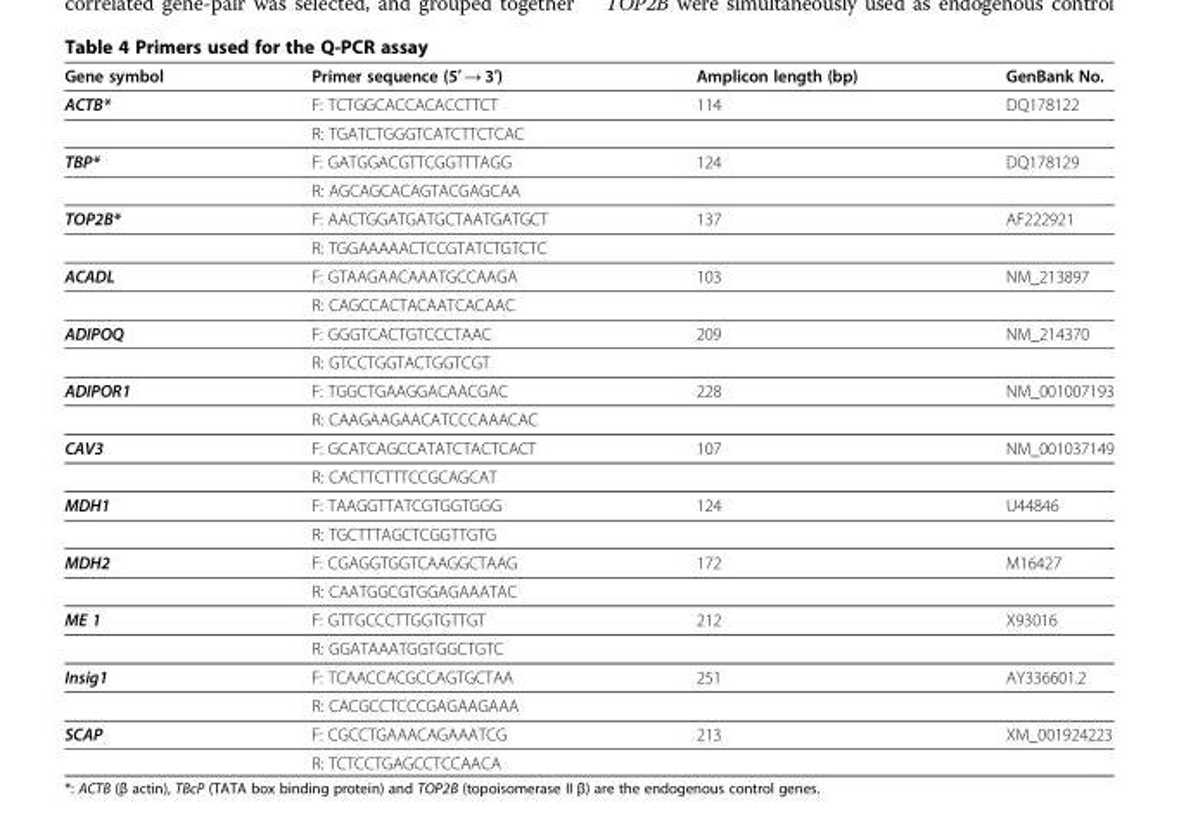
<table><thead><tr><td>Gene symbol</td><td>Primer sequence (5′ → 3′)</td><td>Amplicon length (bp)</td><td>GenBank No.</td></tr></thead><tbody><tr><td rowspan="2">ACTB*</td><td>F: TCTGGCACCACACCTTCT</td><td>114</td><td>DQ178122</td></tr><tr><td>R: TGATCTGGGTCATCTTCTCAC</td><td></td><td></td></tr><tr><td rowspan="2">TBP*</td><td>F: GATGGACGTTCGGTTTAGG</td><td>124</td><td>DQ178129</td></tr><tr><td>R: AGCAGCACAGTACGAGCAA</td><td></td><td></td></tr><tr><td rowspan="2">TOP2B*</td><td>F: AACTGGATGATGCTAATGATGCT</td><td>137</td><td>AF222921</td></tr><tr><td>R: TGGAAAAACTCCGTATCTGTCTC</td><td></td><td></td></tr><tr><td rowspan="2">ACADL</td><td>F: GTAAGAACAAATGCCAAGA</td><td>103</td><td>NM_213897</td></tr><tr><td>R: CAGCCACTACAATCACAAC</td><td></td><td></td></tr><tr><td rowspan="2">ADIPOQ</td><td>F: GGGTCACTGTCCCTAAC</td><td>209</td><td>NM_214370</td></tr><tr><td>R: GTCCTGGTACTGGTCGT</td><td></td><td></td></tr><tr><td rowspan="2">ADIPOR1</td><td>F: TGGCTGAAGGACAACGAC</td><td>228</td><td>NM_001007193</td></tr><tr><td>R: CAAGAAGAACATCCCAAACAC</td><td></td><td></td></tr><tr><td rowspan="2">CAV3</td><td>F: GCATCAGCCATATCTACTCACT</td><td>107</td><td>NM_001037149</td></tr><tr><td>R: CACTTCTTTCCGCAGCAT</td><td></td><td></td></tr><tr><td rowspan="2">MDH1</td><td>F: TAAGGTTATCGTGGTGGG</td><td>124</td><td>U44846</td></tr><tr><td>R: TGCTTTAGCTCGGTTGTG</td><td></td><td></td></tr><tr><td rowspan="2">MDH2</td><td>F: CGAGGTGGTCAAGGCTAAG</td><td>172</td><td>M16427</td></tr><tr><td>R: CAATGGCGTGGAGAAATAC</td><td></td><td></td></tr><tr><td rowspan="2">ME 1</td><td>F: GTTGCCCTTGGTGTTGT</td><td>212</td><td>X93016</td></tr><tr><td>R: GGATAAATGGTGGCTGTC</td><td></td><td></td></tr><tr><td rowspan="2">Insig1</td><td>F: TCAACCACGCCAGTGCTAA</td><td>251</td><td>AY336601.2</td></tr><tr><td>R: CACGCCTCCCGAGAAGAAA</td><td></td><td></td></tr><tr><td rowspan="2">SCAP</td><td>F: CGCCTGAAACAGAAATCG</td><td>213</td><td>XM_001924223</td></tr><tr><td>R: TCTCCTGAGCCTCCAACA</td><td></td><td></td></tr></tbody></table>